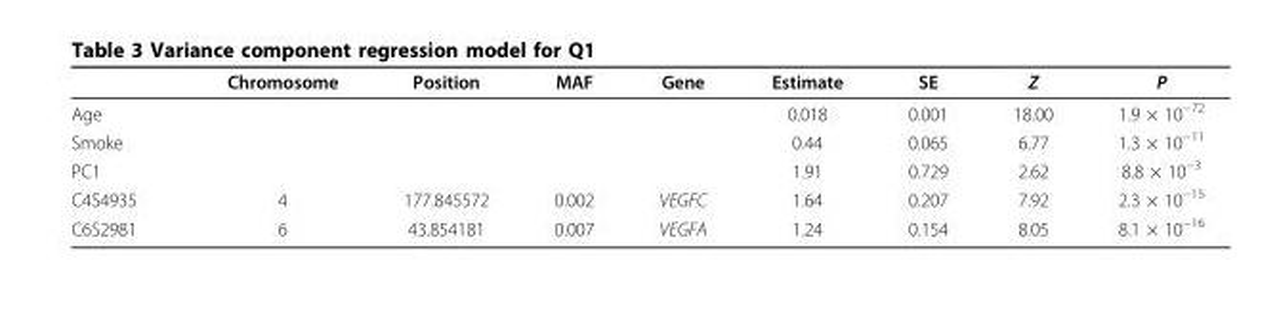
<table><thead><tr><td></td><td>Chromosome</td><td>Position</td><td>MAF</td><td>Gene</td><td>Estimate</td><td>SE</td><td>Z</td><td>P</td></tr></thead><tbody><tr><td>Age</td><td></td><td></td><td></td><td></td><td>0.018</td><td>0.001</td><td>18.00</td><td>1.9 × 10<sup>−72</sup></td></tr><tr><td>Smoke</td><td></td><td></td><td></td><td></td><td>0.44</td><td>0.065</td><td>6.77</td><td>1.3 × 10<sup>−11</sup></td></tr><tr><td>PC1</td><td></td><td></td><td></td><td></td><td>1.91</td><td>0.729</td><td>2.62</td><td>8.8 × 10<sup>−3</sup></td></tr><tr><td>C4S4935</td><td>4</td><td>177.845572</td><td>0.002</td><td>VEGFC</td><td>1.64</td><td>0.207</td><td>7.92</td><td>2.3 × 10<sup>−15</sup></td></tr><tr><td>C6S2981</td><td>6</td><td>43.854181</td><td>0.007</td><td>VEGFA</td><td>1.24</td><td>0.154</td><td>8.05</td><td>8.1 × 10<sup>−16</sup></td></tr></tbody></table>